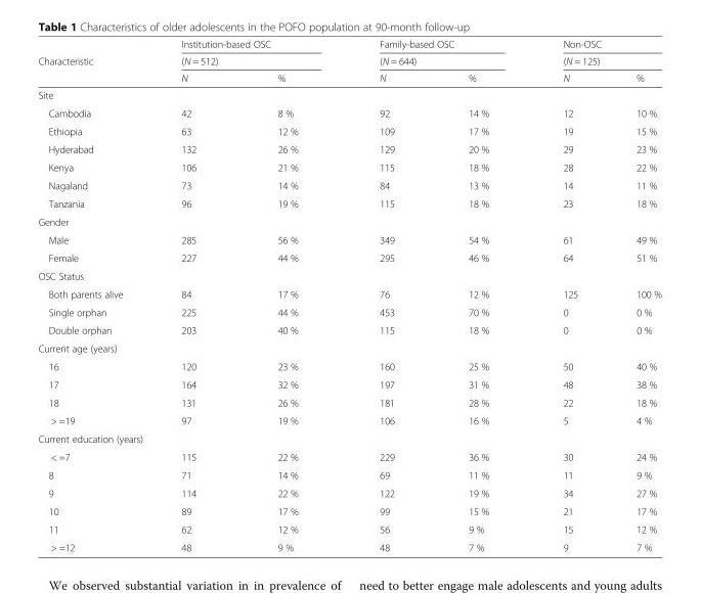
<table><thead><tr><td rowspan="3">Characteristic</td><td rowspan="2" colspan="2">Institution-based OSC (N = 512)</td><td rowspan="2" colspan="2">Family-based OSC (N = 644)</td><td rowspan="2" colspan="2">Non-OSC (N = 125)</td></tr><tr></tr><tr><td>N</td><td>%</td><td>N</td><td>%</td><td>N</td><td>%</td></tr></thead><tbody><tr><td colspan="7">Site</td></tr><tr><td>Cambodia</td><td>42</td><td>8 %</td><td>92</td><td>14 %</td><td>12</td><td>10 %</td></tr><tr><td>Ethiopia</td><td>63</td><td>12 %</td><td>109</td><td>17 %</td><td>19</td><td>15 %</td></tr><tr><td>Hyderabad</td><td>132</td><td>26 %</td><td>129</td><td>20 %</td><td>29</td><td>23 %</td></tr><tr><td>Kenya</td><td>106</td><td>21 %</td><td>115</td><td>18 %</td><td>28</td><td>22 %</td></tr><tr><td>Nagaland</td><td>73</td><td>14 %</td><td>84</td><td>13 %</td><td>14</td><td>11 %</td></tr><tr><td>Tanzania</td><td>96</td><td>19 %</td><td>115</td><td>18 %</td><td>23</td><td>18 %</td></tr><tr><td colspan="7">Gender</td></tr><tr><td>Male</td><td>285</td><td>56 %</td><td>349</td><td>54 %</td><td>61</td><td>49 %</td></tr><tr><td>Female</td><td>227</td><td>44 %</td><td>295</td><td>46 %</td><td>64</td><td>51 %</td></tr><tr><td colspan="7">OSC Status</td></tr><tr><td>Both parents alive</td><td>84</td><td>17 %</td><td>76</td><td>12 %</td><td>125</td><td>100 %</td></tr><tr><td>Single orphan</td><td>225</td><td>44 %</td><td>453</td><td>70 %</td><td>0</td><td>0 %</td></tr><tr><td>Double orphan</td><td>203</td><td>40 %</td><td>115</td><td>18 %</td><td>0</td><td>0 %</td></tr><tr><td colspan="7">Current age (years)</td></tr><tr><td>16</td><td>120</td><td>23 %</td><td>160</td><td>25 %</td><td>50</td><td>40 %</td></tr><tr><td>17</td><td>164</td><td>32 %</td><td>197</td><td>31 %</td><td>48</td><td>38 %</td></tr><tr><td>18</td><td>131</td><td>26 %</td><td>181</td><td>28 %</td><td>22</td><td>18 %</td></tr><tr><td>&gt; =19</td><td>97</td><td>19 %</td><td>106</td><td>16 %</td><td>5</td><td>4 %</td></tr><tr><td colspan="7">Current education (years)</td></tr><tr><td>&lt; =7</td><td>115</td><td>22 %</td><td>229</td><td>36 %</td><td>30</td><td>24 %</td></tr><tr><td>8</td><td>71</td><td>14 %</td><td>69</td><td>11 %</td><td>11</td><td>9 %</td></tr><tr><td>9</td><td>114</td><td>22 %</td><td>122</td><td>19 %</td><td>34</td><td>27 %</td></tr><tr><td>10</td><td>89</td><td>17 %</td><td>99</td><td>15 %</td><td>21</td><td>17 %</td></tr><tr><td>11</td><td>62</td><td>12 %</td><td>56</td><td>9 %</td><td>15</td><td>12 %</td></tr><tr><td>&gt; =12</td><td>48</td><td>9 %</td><td>48</td><td>7 %</td><td>9</td><td>7 %</td></tr></tbody></table>